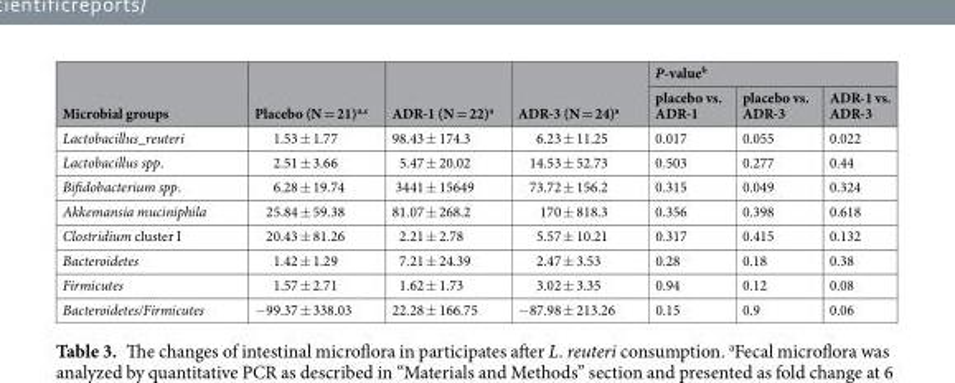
<table><thead><tr><td rowspan="2">Microbial groups</td><td rowspan="2">Placebo (N = 21)<sup>a,c</sup></td><td rowspan="2">ADR-1 (N = 22)<sup>a</sup></td><td rowspan="2">ADR-3 (N = 24)<sup>a</sup></td><td colspan="3">P-value<sup>b</sup></td></tr><tr><td>placebo vs. ADR-1</td><td>placebo vs. ADR-3</td><td>ADR-1 vs. ADR-3</td></tr></thead><tbody><tr><td>Lactobacillus_reuteri</td><td>1.53 ± 1.77</td><td>98.43 ± 174.3</td><td>6.23 ± 11.25</td><td>0.017</td><td>0.055</td><td>0.022</td></tr><tr><td>Lactobacillus spp.</td><td>2.51 ± 3.66</td><td>5.47 ± 20.02</td><td>14.53 ± 52.73</td><td>0.503</td><td>0.277</td><td>0.44</td></tr><tr><td>Bifidobacterium spp.</td><td>6.28 ± 19.74</td><td>3441 ± 15649</td><td>73.72 ± 156.2</td><td>0.315</td><td>0.049</td><td>0.324</td></tr><tr><td>Akkemansia muciniphila</td><td>25.84 ± 59.38</td><td>81.07 ± 268.2</td><td>170 ± 818.3</td><td>0.356</td><td>0.398</td><td>0.618</td></tr><tr><td>Clostridium cluster I</td><td>20.43 ± 81.26</td><td>2.21 ± 2.78</td><td>5.57 ± 10.21</td><td>0.317</td><td>0.415</td><td>0.132</td></tr><tr><td>Bacteroidetes</td><td>1.42 ± 1.29</td><td>7.21 ± 24.39</td><td>2.47 ± 3.53</td><td>0.28</td><td>0.18</td><td>0.38</td></tr><tr><td>Firmicutes</td><td>1.57 ± 2.71</td><td>1.62 ± 1.73</td><td>3.02 ± 3.35</td><td>0.94</td><td>0.12</td><td>0.08</td></tr><tr><td>Bacteroidetes/Firmicutes</td><td>−99.37 ± 338.03</td><td>22.28 ± 166.75</td><td>−87.98 ± 213.26</td><td>0.15</td><td>0.9</td><td>0.06</td></tr></tbody></table>